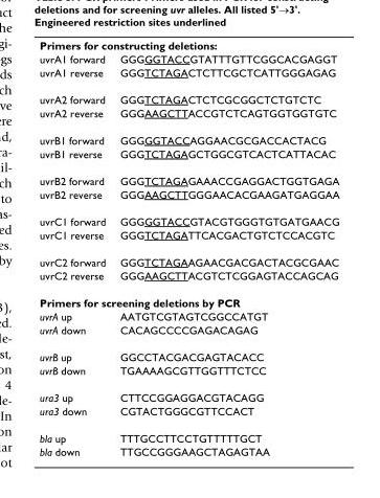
<table><tbody><tr><td colspan="2">Primers for constructing deletions:</td></tr><tr><td>uvrA1 forward</td><td>GGGGGTACCGTATTTGTTCGGCACGAGGT</td></tr><tr><td>uvrA1 reverse</td><td>GGGTCTAGACTCTTCGCTCATTGGGAGAG</td></tr><tr><td>uvrA2 forward</td><td>GGGTCTAGACTCTCGCGGCTCTGTCTC</td></tr><tr><td>uvrA2 reverse</td><td>GGGAAGCTTACCGTCTCAGTGGTGGTGTC</td></tr><tr><td>uvrB1 forward</td><td>GGGGGTACCAGGAACGCGACCACTACG</td></tr><tr><td>uvrB1 reverse</td><td>GGGTCTAGAGCTGGCGTCACTCATTACAC</td></tr><tr><td>uvrB2 forward</td><td>GGGTCTAGAGAAACCGAGGACTGGTGAGA</td></tr><tr><td>uvrB2 reverse</td><td>GGGAAGCTTGGGAACACGAAGATGAGGAA</td></tr><tr><td>uvrC1 forward</td><td>GGGGGTACCGTACGTGGGTGTGATGAACG</td></tr><tr><td>uvrC1 reverse</td><td>GGGTCTAGATTCACGACTGTCTCCACGTC</td></tr><tr><td>uvrC2 forward</td><td>GGGTCTAGAAGAACGACGACTACGCGAAC</td></tr><tr><td>uvrC2 reverse</td><td>GGGAAGCTTACGTCTCGGAGTACCAGCAG</td></tr><tr><td colspan="2">Primers for screening deletions by PCR</td></tr><tr><td>uvrA up</td><td>AATGTCGTAGTCGGCCATGT</td></tr><tr><td>uvrA down</td><td>CACAGCCCCGAGACAGAG</td></tr><tr><td>uvrB up</td><td>GGCCTACGACGAGTACACC</td></tr><tr><td>uvrB down</td><td>TGAAAAGCGTTGGTTTCTCC</td></tr><tr><td>ura3 up</td><td>CTTCCGGAGGACGTACAGG</td></tr><tr><td>ura3 down</td><td>CGTACTGGGCGTTCCACT</td></tr><tr><td>bla up</td><td>TTTGCCTTCCTGTTTTTGCT</td></tr><tr><td>bla down</td><td>TTGCCGGGAAGCTAGAGTAA</td></tr></tbody></table>